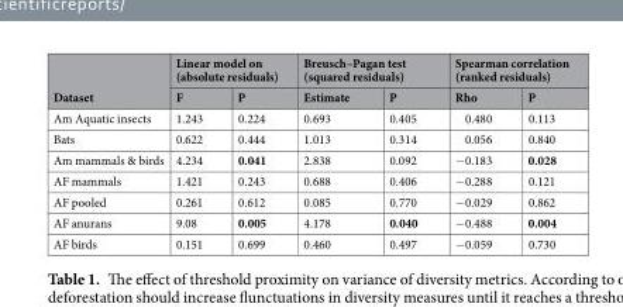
<table><thead><tr><td rowspan="2">Dataset</td><td colspan="2">Linear model on (absolute residuals)</td><td colspan="2">Breusch–Pagan test (squared residuals)</td><td colspan="2">Spearman correlation (ranked residuals)</td></tr><tr><td>F</td><td>P</td><td>Estimate</td><td>P</td><td>Rho</td><td>P</td></tr></thead><tbody><tr><td>Am Aquatic insects</td><td>1.243</td><td>0.224</td><td>0.693</td><td>0.405</td><td>0.480</td><td>0.113</td></tr><tr><td>Bats</td><td>0.622</td><td>0.444</td><td>1.013</td><td>0.314</td><td>0.056</td><td>0.840</td></tr><tr><td>Am mammals &amp; birds</td><td>4.234</td><td>0.041</td><td>2.838</td><td>0.092</td><td>−0.183</td><td>0.028</td></tr><tr><td>AF mammals</td><td>1.421</td><td>0.243</td><td>0.688</td><td>0.406</td><td>−0.288</td><td>0.121</td></tr><tr><td>AF pooled</td><td>0.261</td><td>0.612</td><td>0.085</td><td>0.770</td><td>−0.029</td><td>0.862</td></tr><tr><td>AF anurans</td><td>9.08</td><td>0.005</td><td>4.178</td><td>0.040</td><td>−0.488</td><td>0.004</td></tr><tr><td>AF birds</td><td>0.151</td><td>0.699</td><td>0.460</td><td>0.497</td><td>−0.059</td><td>0.730</td></tr></tbody></table>